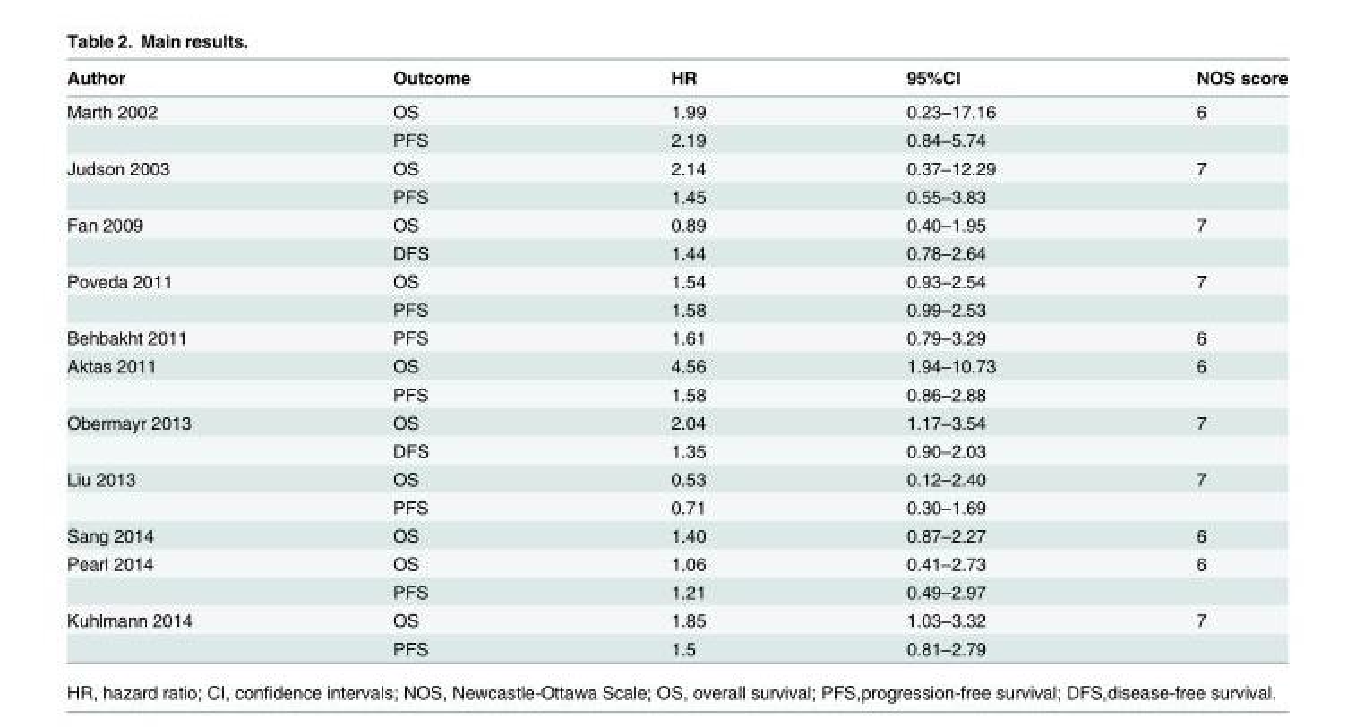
<table><thead><tr><td>Author</td><td>Outcome</td><td>HR</td><td>95%CI</td><td>NOS score</td></tr></thead><tbody><tr><td rowspan="2">Marth 2002</td><td>OS</td><td>1.99</td><td>0.23–17.16</td><td>6</td></tr><tr><td>PFS</td><td>2.19</td><td>0.84–5.74</td><td></td></tr><tr><td rowspan="2">Judson 2003</td><td>OS</td><td>2.14</td><td>0.37–12.29</td><td>7</td></tr><tr><td>PFS</td><td>1.45</td><td>0.55–3.83</td><td></td></tr><tr><td rowspan="2">Fan 2009</td><td>OS</td><td>0.89</td><td>0.40–1.95</td><td>7</td></tr><tr><td>DFS</td><td>1.44</td><td>0.78–2.64</td><td></td></tr><tr><td rowspan="2">Poveda 2011</td><td>OS</td><td>1.54</td><td>0.93–2.54</td><td>7</td></tr><tr><td>PFS</td><td>1.58</td><td>0.99–2.53</td><td></td></tr><tr><td>Behbakht 2011</td><td>PFS</td><td>1.61</td><td>0.79–3.29</td><td>6</td></tr><tr><td rowspan="2">Aktas 2011</td><td>OS</td><td>4.56</td><td>1.94–10.73</td><td>6</td></tr><tr><td>PFS</td><td>1.58</td><td>0.86–2.88</td><td></td></tr><tr><td rowspan="2">Obermayr 2013</td><td>OS</td><td>2.04</td><td>1.17–3.54</td><td>7</td></tr><tr><td>DFS</td><td>1.35</td><td>0.90–2.03</td><td></td></tr><tr><td rowspan="2">Liu 2013</td><td>OS</td><td>0.53</td><td>0.12–2.40</td><td>7</td></tr><tr><td>PFS</td><td>0.71</td><td>0.30–1.69</td><td></td></tr><tr><td>Sang 2014</td><td>OS</td><td>1.40</td><td>0.87–2.27</td><td>6</td></tr><tr><td rowspan="2">Pearl 2014</td><td>OS</td><td>1.06</td><td>0.41–2.73</td><td>6</td></tr><tr><td>PFS</td><td>1.21</td><td>0.49–2.97</td><td></td></tr><tr><td rowspan="2">Kuhlmann 2014</td><td>OS</td><td>1.85</td><td>1.03–3.32</td><td>7</td></tr><tr><td>PFS</td><td>1.5</td><td>0.81–2.79</td><td></td></tr></tbody></table>